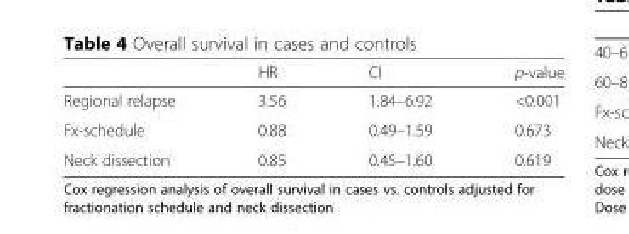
<table><thead><tr><td></td><td>HR</td><td>CI</td><td>p-value</td></tr></thead><tbody><tr><td>Regional relapse</td><td>3.56</td><td>1.84–6.92</td><td>&lt;0.001</td></tr><tr><td>Fx-schedule</td><td>0.88</td><td>0.49–1.59</td><td>0.673</td></tr><tr><td>Neck dissection</td><td>0.85</td><td>0.45–1.60</td><td>0.619</td></tr></tbody></table>